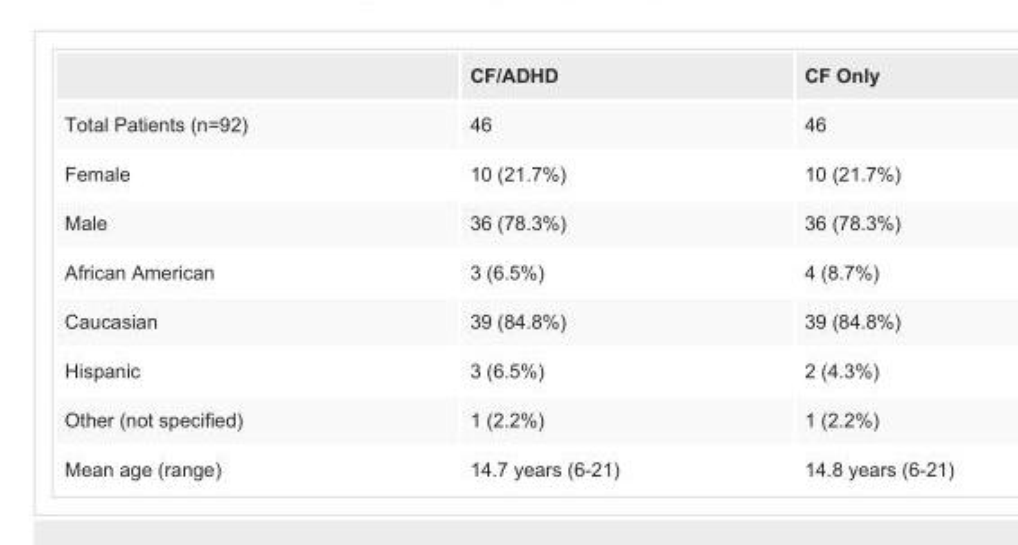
<table><thead><tr><td></td><td>CF/ADHD</td><td>CF Only</td></tr></thead><tbody><tr><td>Total Patients (n=92)</td><td>46</td><td>46</td></tr><tr><td>Female</td><td>10 (21.7%)</td><td>10 (21.7%)</td></tr><tr><td>Male</td><td>36 (78.3%)</td><td>36 (78.3%)</td></tr><tr><td>African American</td><td>3 (6.5%)</td><td>4 (8.7%)</td></tr><tr><td>Caucasian</td><td>39 (84.8%)</td><td>39 (84.8%)</td></tr><tr><td>Hispanic</td><td>3 (6.5%)</td><td>2 (4.3%)</td></tr><tr><td>Other (not specified)</td><td>1 (2.2%)</td><td>1 (2.2%)</td></tr><tr><td>Mean age (range)</td><td>14.7 years (6-21)</td><td>14.8 years (6-21)</td></tr></tbody></table>